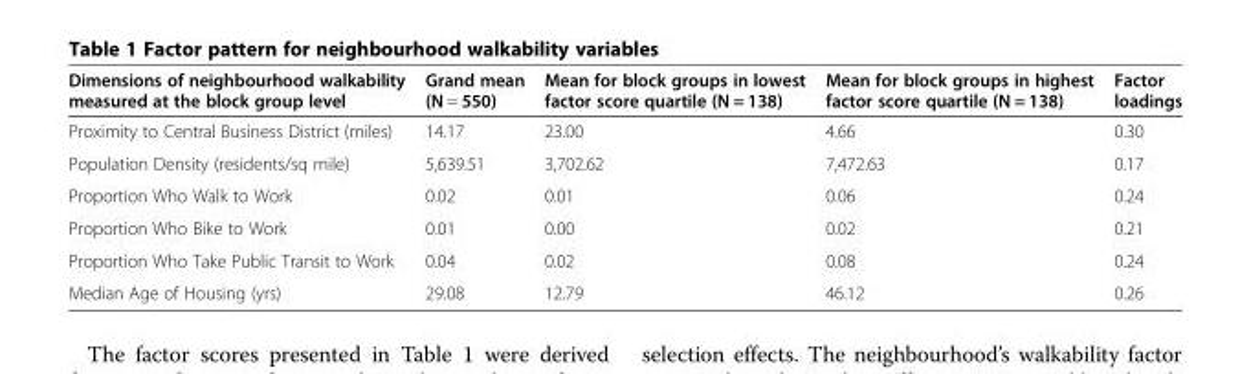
<table><thead><tr><td>Dimensions of neighbourhood walkability measured at the block group level</td><td>Grand mean (N = 550)</td><td>Mean for block groups in lowest factor score quartile (N = 138)</td><td>Mean for block groups in highest factor score quartile (N = 138)</td><td>Factor loadings</td></tr></thead><tbody><tr><td>Proximity to Central Business District (miles)</td><td>14.17</td><td>23.00</td><td>4.66</td><td>0.30</td></tr><tr><td>Population Density (residents/sq mile)</td><td>5,639.51</td><td>3,702.62</td><td>7,472.63</td><td>0.17</td></tr><tr><td>Proportion Who Walk to Work</td><td>0.02</td><td>0.01</td><td>0.06</td><td>0.24</td></tr><tr><td>Proportion Who Bike to Work</td><td>0.01</td><td>0.00</td><td>0.02</td><td>0.21</td></tr><tr><td>Proportion Who Take Public Transit to Work</td><td>0.04</td><td>0.02</td><td>0.08</td><td>0.24</td></tr><tr><td>Median Age of Housing (yrs)</td><td>29.08</td><td>12.79</td><td>46.12</td><td>0.26</td></tr></tbody></table>